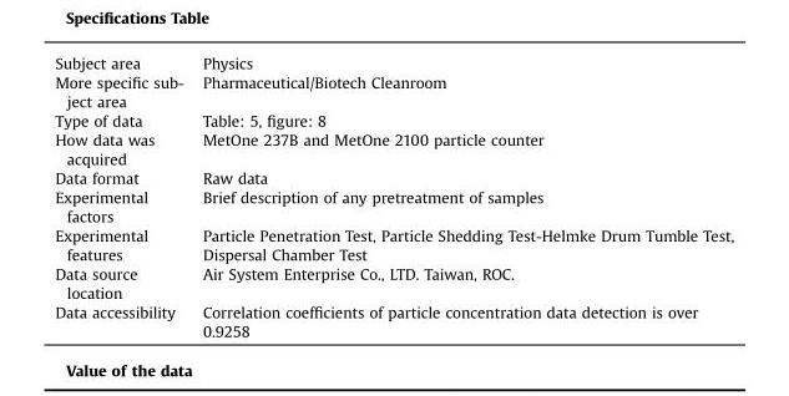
<table><tbody><tr><td>Subject area</td><td>Physics</td></tr><tr><td>More specific sub- ject area</td><td>Pharmaceutical/Biotech Cleanroom</td></tr><tr><td>Type of data</td><td>Table: 5, figure: 8</td></tr><tr><td>How data was acquired</td><td>MetOne 237B and MetOne 2100 particle counter</td></tr><tr><td>Data format</td><td>Raw data</td></tr><tr><td>Experimental factors</td><td>Brief description of any pretreatment of samples</td></tr><tr><td>Experimental features</td><td>Particle Penetration Test, Particle Shedding Test-Helmke Drum Tumble Test, Dispersal Chamber Test</td></tr><tr><td>Data source location</td><td>Air System Enterprise Co., LTD. Taiwan, ROC.</td></tr><tr><td>Data accessibility</td><td>Correlation coefficients of particle concentration data detection is over 0.9258</td></tr></tbody></table>